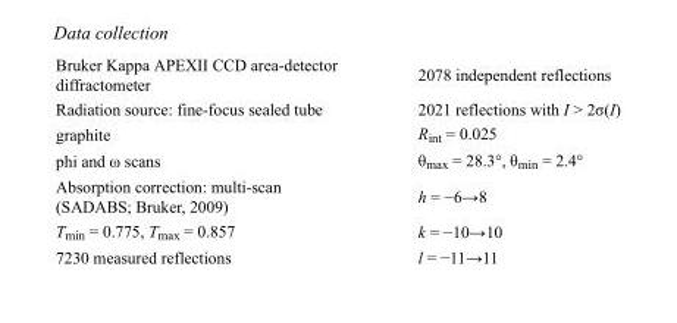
<table><tbody><tr><td>Bruker Kappa APEXII CCD area-detector diffractometer</td><td>2078 independent reflections</td></tr><tr><td>Radiation source: fine-focus sealed tube</td><td>2021 reflections with I &gt; 2σ(I)</td></tr><tr><td>graphite</td><td>R<sub>int</sub> = 0.025</td></tr><tr><td>phi and ω scans</td><td>θ<sub>max</sub> = 28.3°, θ<sub>min</sub> = 2.4°</td></tr><tr><td>Absorption correction: multi-scan (SADABS; Bruker, 2009)</td><td>h = −6→8</td></tr><tr><td>T<sub>min</sub> = 0.775, T<sub>max</sub> = 0.857</td><td>k = −10→10</td></tr><tr><td>7230 measured reflections</td><td>l = −11→11</td></tr></tbody></table>